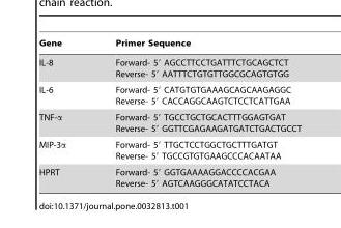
<table><thead><tr><td>Gene</td><td>Primer Sequence</td></tr></thead><tbody><tr><td>IL-8</td><td>Forward- 5′ AGCCTTCCTGATTTCTGCAGCTCT Reverse- 5′ AATTTCTGTGTTGGCGCAGTGTGG</td></tr><tr><td>IL-6</td><td>Forward- 5′ CATGTGTGAAAGCAGCAAGAGGC Reverse- 5′ CACCAGGCAAGTCTCCTCATTGAA</td></tr><tr><td>TNF-α</td><td>Forward- 5′ TGCCTGCTGCACTTTGGAGTGAT Reverse- 5′ GGTTCGAGAAGATGATCTGACTGCCT</td></tr><tr><td>MIP-3α</td><td>Forward- 5′ TTGCTCCTGGCTGCTTTGATGT Reverse- 5′ TGCCGTGTGAAGCCCACAATAA</td></tr><tr><td>HPRT</td><td>Forward- 5′ GGTGAAAAGGACCCCACGAA Reverse- 5′ AGTCAAGGGCATATCCTACA</td></tr></tbody></table>